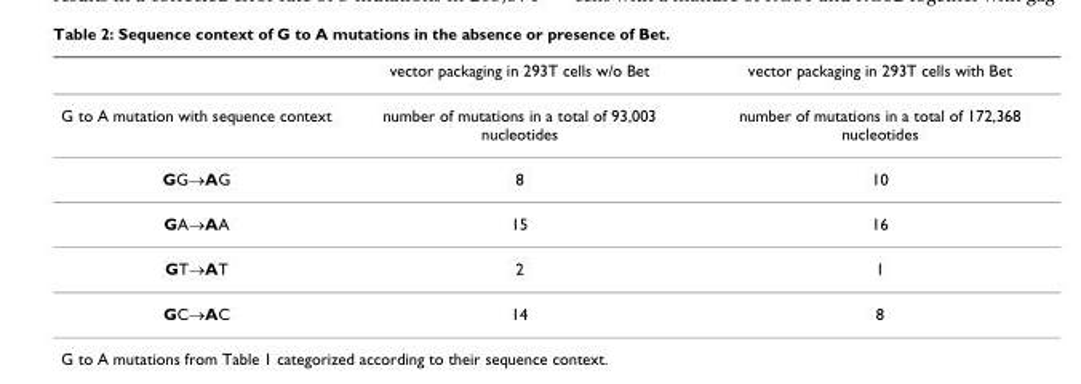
<table><thead><tr><td></td><td>vector packaging in 293T cells w/o Bet</td><td>vector packaging in 293T cells with Bet</td></tr></thead><tbody><tr><td>G to A mutation with sequence context</td><td>number of mutations in a total of 93,003 nucleotides</td><td>number of mutations in a total of 172,368 nucleotides</td></tr><tr><td>GG→AG</td><td>8</td><td>10</td></tr><tr><td>GA→AA</td><td>15</td><td>16</td></tr><tr><td>GT→AT</td><td>2</td><td>1</td></tr><tr><td>GC→AC</td><td>14</td><td>8</td></tr></tbody></table>